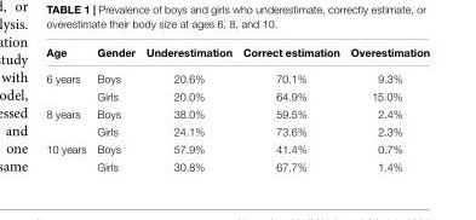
<table><thead><tr><td>Age</td><td>Gender</td><td>Underestimation</td><td>Correct estimation</td><td>Overestimation</td></tr></thead><tbody><tr><td rowspan="2">6 years</td><td>Boys</td><td>20.6%</td><td>70.1%</td><td>9.3%</td></tr><tr><td>Girls</td><td>20.0%</td><td>64.9%</td><td>15.0%</td></tr><tr><td rowspan="2">8 years</td><td>Boys</td><td>38.0%</td><td>59.5%</td><td>2.4%</td></tr><tr><td>Girls</td><td>24.1%</td><td>73.6%</td><td>2.3%</td></tr><tr><td rowspan="2">10 years</td><td>Boys</td><td>57.9%</td><td>41.4%</td><td>0.7%</td></tr><tr><td>Girls</td><td>30.8%</td><td>67.7%</td><td>1.4%</td></tr></tbody></table>